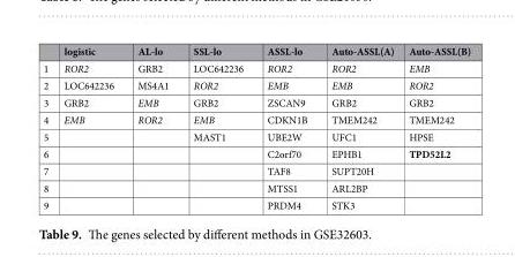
<table><thead><tr><td></td><td>logistic</td><td>AL-lo</td><td>SSL-lo</td><td>ASSL-lo</td><td>Auto-ASSL(A)</td><td>Auto-ASSL(B)</td></tr></thead><tbody><tr><td>1</td><td>ROR2</td><td>GRB2</td><td>LOC642236</td><td>ROR2</td><td>ROR2</td><td>EMB</td></tr><tr><td>2</td><td>LOC642236</td><td>MS4A1</td><td>ROR2</td><td>EMB</td><td>EMB</td><td>ROR2</td></tr><tr><td>3</td><td>GRB2</td><td>EMB</td><td>GRB2</td><td>ZSCAN9</td><td>GRB2</td><td>GRB2</td></tr><tr><td>4</td><td>EMB</td><td>ROR2</td><td>EMB</td><td>CDKN1B</td><td>TMEM242</td><td>TMEM242</td></tr><tr><td>5</td><td></td><td></td><td>MAST1</td><td>UBE2W</td><td>UFC1</td><td>HPSE</td></tr><tr><td>6</td><td></td><td></td><td></td><td>C2orf70</td><td>EPHB1</td><td>TPD52L2</td></tr><tr><td>7</td><td></td><td></td><td></td><td>TAF8</td><td>SUPT20H</td><td></td></tr><tr><td>8</td><td></td><td></td><td></td><td>MTSS1</td><td>ARL2BP</td><td></td></tr><tr><td>9</td><td></td><td></td><td></td><td>PRDM4</td><td>STK3</td><td></td></tr></tbody></table>